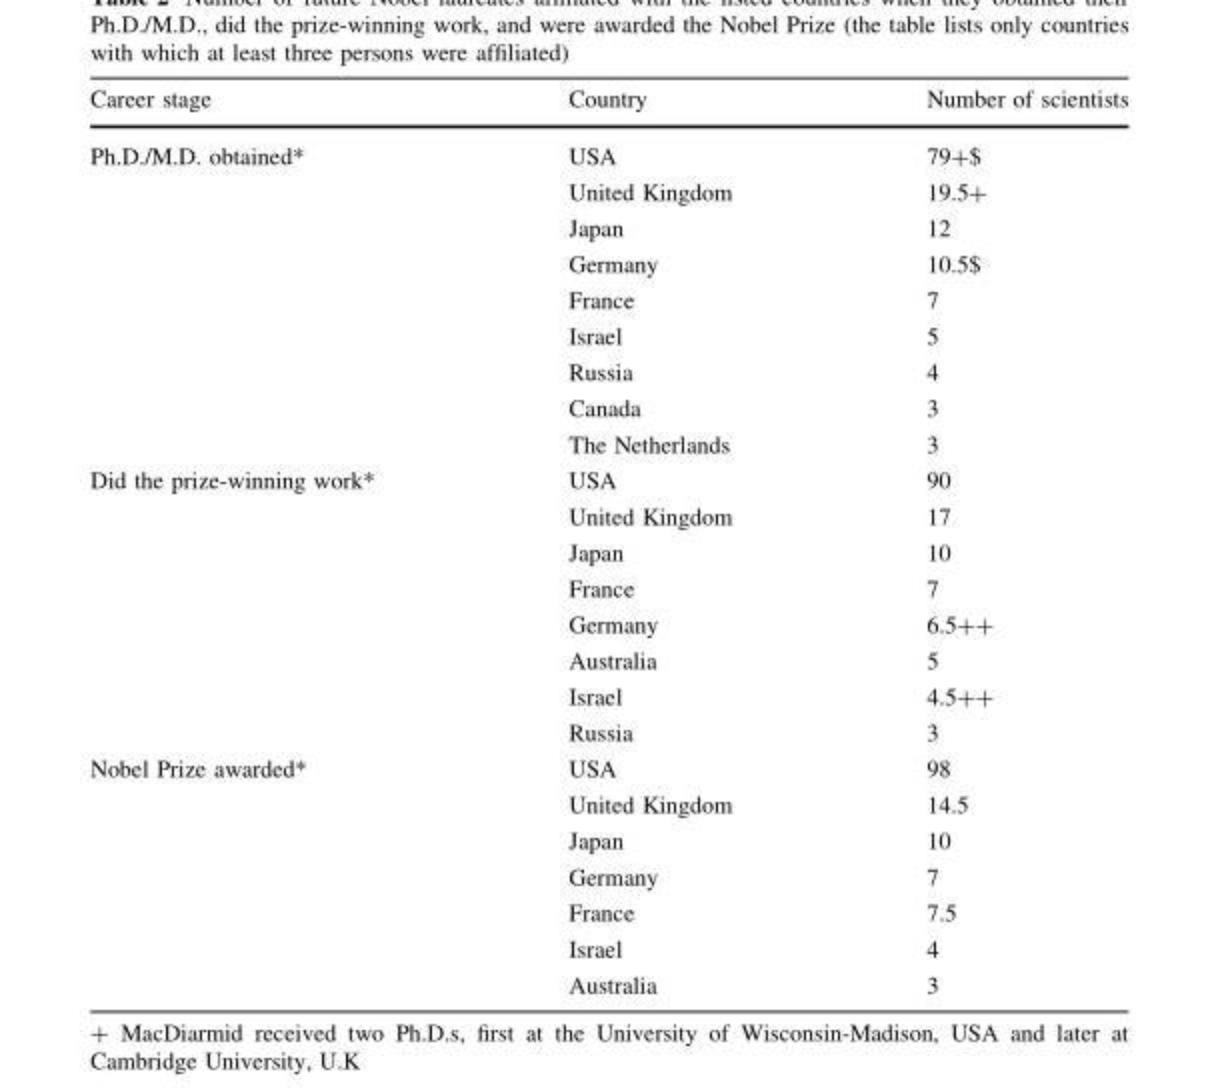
<table><thead><tr><td>Career stage</td><td>Country</td><td>Number of scientists</td></tr></thead><tbody><tr><td rowspan="9">Ph.D./M.D. obtained*</td><td>USA</td><td>79+$</td></tr><tr><td>United Kingdom</td><td>19.5+</td></tr><tr><td>Japan</td><td>12</td></tr><tr><td>Germany</td><td>10.5$</td></tr><tr><td>France</td><td>7</td></tr><tr><td>Israel</td><td>5</td></tr><tr><td>Russia</td><td>4</td></tr><tr><td>Canada</td><td>3</td></tr><tr><td>The Netherlands</td><td>3</td></tr><tr><td rowspan="8">Did the prize-winning work*</td><td>USA</td><td>90</td></tr><tr><td>United Kingdom</td><td>17</td></tr><tr><td>Japan</td><td>10</td></tr><tr><td>France</td><td>7</td></tr><tr><td>Germany</td><td>6.5++</td></tr><tr><td>Australia</td><td>5</td></tr><tr><td>Israel</td><td>4.5++</td></tr><tr><td>Russia</td><td>3</td></tr><tr><td rowspan="7">Nobel Prize awarded*</td><td>USA</td><td>98</td></tr><tr><td>United Kingdom</td><td>14.5</td></tr><tr><td>Japan</td><td>10</td></tr><tr><td>Germany</td><td>7</td></tr><tr><td>France</td><td>7.5</td></tr><tr><td>Israel</td><td>4</td></tr><tr><td>Australia</td><td>3</td></tr></tbody></table>